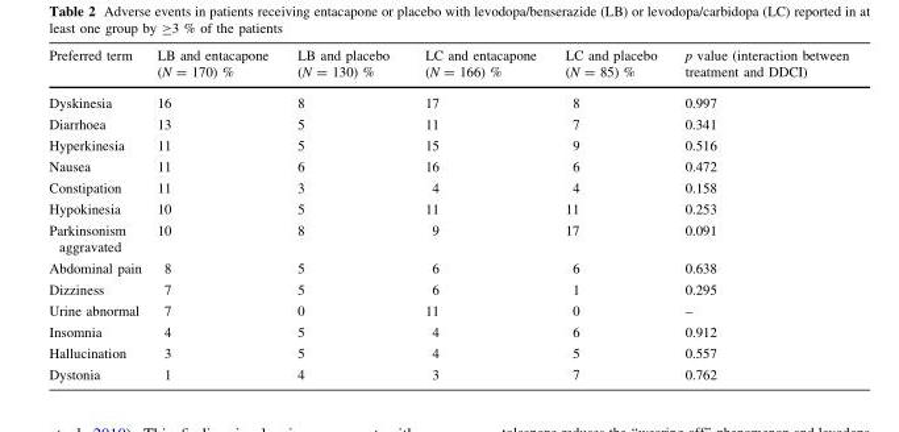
<table><thead><tr><td>Preferred term</td><td>LB and entacapone (N = 170) %</td><td>LB and placebo (N = 130) %</td><td>LC and entacapone (N = 166) %</td><td>LC and placebo (N = 85) %</td><td>p value (interaction between treatment and DDCI)</td></tr></thead><tbody><tr><td>Dyskinesia</td><td>16</td><td>8</td><td>17</td><td>8</td><td>0.997</td></tr><tr><td>Diarrhoea</td><td>13</td><td>5</td><td>11</td><td>7</td><td>0.341</td></tr><tr><td>Hyperkinesia</td><td>11</td><td>5</td><td>15</td><td>9</td><td>0.516</td></tr><tr><td>Nausea</td><td>11</td><td>6</td><td>16</td><td>6</td><td>0.472</td></tr><tr><td>Constipation</td><td>11</td><td>3</td><td>4</td><td>4</td><td>0.158</td></tr><tr><td>Hypokinesia</td><td>10</td><td>5</td><td>11</td><td>11</td><td>0.253</td></tr><tr><td>Parkinsonism aggravated</td><td>10</td><td>8</td><td>9</td><td>17</td><td>0.091</td></tr><tr><td>Abdominal pain</td><td>8</td><td>5</td><td>6</td><td>6</td><td>0.638</td></tr><tr><td>Dizziness</td><td>7</td><td>5</td><td>6</td><td>1</td><td>0.295</td></tr><tr><td>Urine abnormal</td><td>7</td><td>0</td><td>11</td><td>0</td><td>–</td></tr><tr><td>Insomnia</td><td>4</td><td>5</td><td>4</td><td>6</td><td>0.912</td></tr><tr><td>Hallucination</td><td>3</td><td>5</td><td>4</td><td>5</td><td>0.557</td></tr><tr><td>Dystonia</td><td>1</td><td>4</td><td>3</td><td>7</td><td>0.762</td></tr></tbody></table>